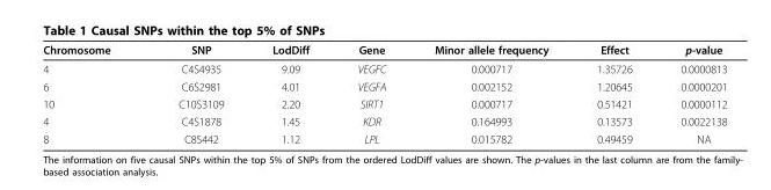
<table><thead><tr><td>Chromosome</td><td>SNP</td><td>LodDiff</td><td>Gene</td><td>Minor allele frequency</td><td>Effect</td><td>p-value</td></tr></thead><tbody><tr><td>4</td><td>C4S4935</td><td>9.09</td><td>VEGFC</td><td>0.000717</td><td>1.35726</td><td>0.0000813</td></tr><tr><td>6</td><td>C6S2981</td><td>4.01</td><td>VEGFA</td><td>0.002152</td><td>1.20645</td><td>0.0000201</td></tr><tr><td>10</td><td>C10S3109</td><td>2.20</td><td>SIRT1</td><td>0.000717</td><td>0.51421</td><td>0.0000112</td></tr><tr><td>4</td><td>C4S1878</td><td>1.45</td><td>KDR</td><td>0.164993</td><td>0.13573</td><td>0.0022138</td></tr><tr><td>8</td><td>C8S442</td><td>1.12</td><td>LPL</td><td>0.015782</td><td>0.49459</td><td>NA</td></tr></tbody></table>